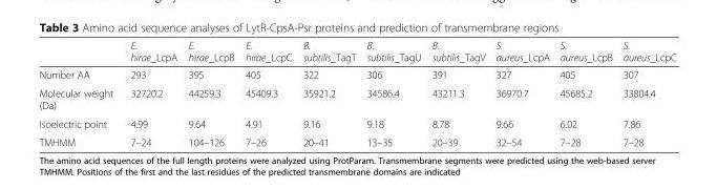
<table><thead><tr><td></td><td>E. hirae_LcpA</td><td>E. hirae_LcpB</td><td>E. hirae_LcpC</td><td>B. subtilis_TagT</td><td>B. subtilis_TagU</td><td>B. subtilis_TagV</td><td>S. aureus_LcpA</td><td>S. aureus_LcpB</td><td>S. aureus_LcpC</td></tr></thead><tbody><tr><td>Number AA</td><td>293</td><td>395</td><td>405</td><td>322</td><td>306</td><td>391</td><td>327</td><td>405</td><td>307</td></tr><tr><td>Molecular weight (Da)</td><td>32720.2</td><td>44259.3</td><td>45409.3</td><td>35921.2</td><td>34586.4</td><td>43211.3</td><td>36970.7</td><td>45685.2</td><td>33804.4</td></tr><tr><td>Isoelectric point</td><td>4.99</td><td>9.64</td><td>4.91</td><td>9.16</td><td>9.18</td><td>8.78</td><td>9.66</td><td>6.02</td><td>7.86</td></tr><tr><td>TMHMM</td><td>7–24</td><td>104–126</td><td>7–26</td><td>20–41</td><td>13–35</td><td>20–39</td><td>32–54</td><td>7–28</td><td>7–28</td></tr></tbody></table>